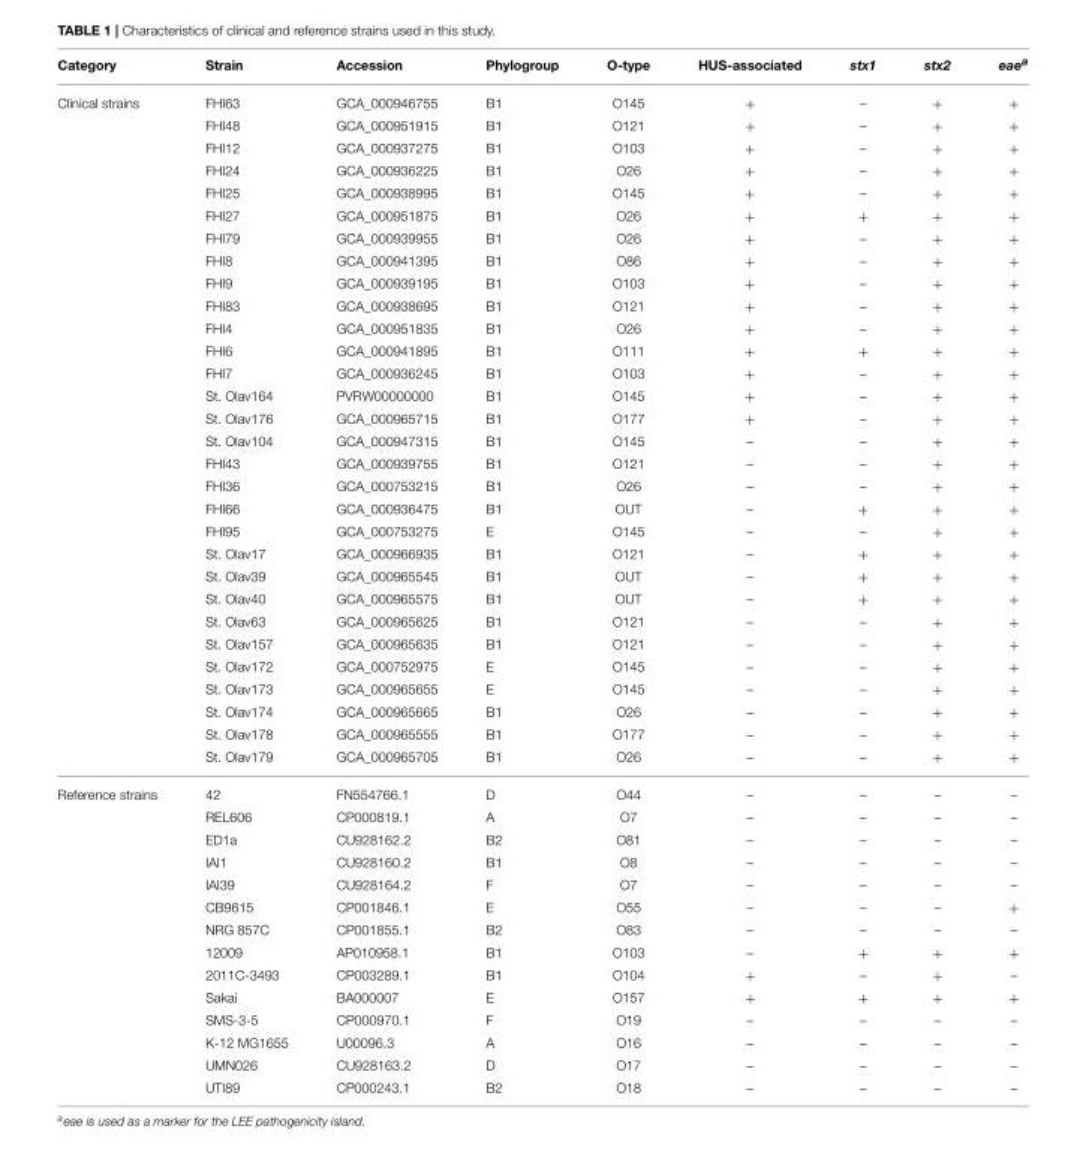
<table><thead><tr><td>Category</td><td>Strain</td><td>Accession</td><td>Phylogroup</td><td>O-type</td><td>HUS-associated</td><td>stx1</td><td>stx2</td><td>eaea</td></tr></thead><tbody><tr><td rowspan="30">Clinical strains</td><td>FHI63</td><td>GCA_000946755</td><td>B1</td><td>O145</td><td>+</td><td>–</td><td>+</td><td>+</td></tr><tr><td>FHI48</td><td>GCA_000951915</td><td>B1</td><td>O121</td><td>+</td><td>–</td><td>+</td><td>+</td></tr><tr><td>FHI12</td><td>GCA_000937275</td><td>B1</td><td>O103</td><td>+</td><td>–</td><td>+</td><td>+</td></tr><tr><td>FHI24</td><td>GCA_000936225</td><td>B1</td><td>O26</td><td>+</td><td>–</td><td>+</td><td>+</td></tr><tr><td>FHI25</td><td>GCA_000938995</td><td>B1</td><td>O145</td><td>+</td><td>–</td><td>+</td><td>+</td></tr><tr><td>FHI27</td><td>GCA_000951875</td><td>B1</td><td>O26</td><td>+</td><td>+</td><td>+</td><td>+</td></tr><tr><td>FHI79</td><td>GCA_000939955</td><td>B1</td><td>O26</td><td>+</td><td>–</td><td>+</td><td>+</td></tr><tr><td>FHI8</td><td>GCA_000941395</td><td>B1</td><td>O86</td><td>+</td><td>–</td><td>+</td><td>+</td></tr><tr><td>FHI9</td><td>GCA_000939195</td><td>B1</td><td>O103</td><td>+</td><td>–</td><td>+</td><td>+</td></tr><tr><td>FHI83</td><td>GCA_000938695</td><td>B1</td><td>O121</td><td>+</td><td>–</td><td>+</td><td>+</td></tr><tr><td>FHI4</td><td>GCA_000951835</td><td>B1</td><td>O26</td><td>+</td><td>–</td><td>+</td><td>+</td></tr><tr><td>FHI6</td><td>GCA_000941895</td><td>B1</td><td>O111</td><td>+</td><td>+</td><td>+</td><td>+</td></tr><tr><td>FHI7</td><td>GCA_000936245</td><td>B1</td><td>O103</td><td>+</td><td>–</td><td>+</td><td>+</td></tr><tr><td>St. Olav164</td><td>PVRW00000000</td><td>B1</td><td>O145</td><td>+</td><td>–</td><td>+</td><td>+</td></tr><tr><td>St. Olav176</td><td>GCA_000965715</td><td>B1</td><td>O177</td><td>+</td><td>–</td><td>+</td><td>+</td></tr><tr><td>St. Olav104</td><td>GCA_000947315</td><td>B1</td><td>O145</td><td>–</td><td>–</td><td>+</td><td>+</td></tr><tr><td>FHI43</td><td>GCA_000939755</td><td>B1</td><td>O121</td><td>–</td><td>–</td><td>+</td><td>+</td></tr><tr><td>FHI36</td><td>GCA_000753215</td><td>B1</td><td>O26</td><td>–</td><td>–</td><td>+</td><td>+</td></tr><tr><td>FHI66</td><td>GCA_000936475</td><td>B1</td><td>OUT</td><td>–</td><td>+</td><td>+</td><td>+</td></tr><tr><td>FHI95</td><td>GCA_000753275</td><td>E</td><td>O145</td><td>–</td><td>–</td><td>+</td><td>+</td></tr><tr><td>St. Olav17</td><td>GCA_000966935</td><td>B1</td><td>O121</td><td>–</td><td>+</td><td>+</td><td>+</td></tr><tr><td>St. Olav39</td><td>GCA_000965545</td><td>B1</td><td>OUT</td><td>–</td><td>+</td><td>+</td><td>+</td></tr><tr><td>St. Olav40</td><td>GCA_000965575</td><td>B1</td><td>OUT</td><td>–</td><td>+</td><td>+</td><td>+</td></tr><tr><td>St. Olav63</td><td>GCA_000965625</td><td>B1</td><td>O121</td><td>–</td><td>–</td><td>+</td><td>+</td></tr><tr><td>St. Olav157</td><td>GCA_000965635</td><td>B1</td><td>O121</td><td>–</td><td>–</td><td>+</td><td>+</td></tr><tr><td>St. Olav172</td><td>GCA_000752975</td><td>E</td><td>O145</td><td>–</td><td>–</td><td>+</td><td>+</td></tr><tr><td>St. Olav173</td><td>GCA_000965655</td><td>E</td><td>O145</td><td>–</td><td>–</td><td>+</td><td>+</td></tr><tr><td>St. Olav174</td><td>GCA_000965665</td><td>B1</td><td>O26</td><td>–</td><td>–</td><td>+</td><td>+</td></tr><tr><td>St. Olav178</td><td>GCA_000965555</td><td>B1</td><td>O177</td><td>–</td><td>–</td><td>+</td><td>+</td></tr><tr><td>St. Olav179</td><td>GCA_000965705</td><td>B1</td><td>O26</td><td>–</td><td>–</td><td>+</td><td>+</td></tr><tr><td rowspan="14">Reference strains</td><td>42</td><td>FN554766.1</td><td>D</td><td>O44</td><td>–</td><td>–</td><td>–</td><td>–</td></tr><tr><td>REL606</td><td>CP000819.1</td><td>A</td><td>O7</td><td>–</td><td>–</td><td>–</td><td>–</td></tr><tr><td>ED1a</td><td>CU928162.2</td><td>B2</td><td>O81</td><td>–</td><td>–</td><td>–</td><td>–</td></tr><tr><td>IAI1</td><td>CU928160.2</td><td>B1</td><td>O8</td><td>–</td><td>–</td><td>–</td><td>–</td></tr><tr><td>IAI39</td><td>CU928164.2</td><td>F</td><td>O7</td><td>–</td><td>–</td><td>–</td><td>–</td></tr><tr><td>CB9615</td><td>CP001846.1</td><td>E</td><td>O55</td><td>–</td><td>–</td><td>–</td><td>+</td></tr><tr><td>NRG 857C</td><td>CP001855.1</td><td>B2</td><td>O83</td><td>–</td><td>–</td><td>–</td><td>–</td></tr><tr><td>12009</td><td>AP010958.1</td><td>B1</td><td>O103</td><td>–</td><td>+</td><td>+</td><td>+</td></tr><tr><td>2011C-3493</td><td>CP003289.1</td><td>B1</td><td>O104</td><td>+</td><td>–</td><td>+</td><td>–</td></tr><tr><td>Sakai</td><td>BA000007</td><td>E</td><td>O157</td><td>+</td><td>+</td><td>+</td><td>+</td></tr><tr><td>SMS-3-5</td><td>CP000970.1</td><td>F</td><td>O19</td><td>–</td><td>–</td><td>–</td><td>–</td></tr><tr><td>K-12 MG1655</td><td>U00096.3</td><td>A</td><td>O16</td><td>–</td><td>–</td><td>–</td><td>–</td></tr><tr><td>UMN026</td><td>CU928163.2</td><td>D</td><td>O17</td><td>–</td><td>–</td><td>–</td><td>–</td></tr><tr><td>UTI89</td><td>CP000243.1</td><td>B2</td><td>O18</td><td>–</td><td>–</td><td>–</td><td>–</td></tr></tbody></table>